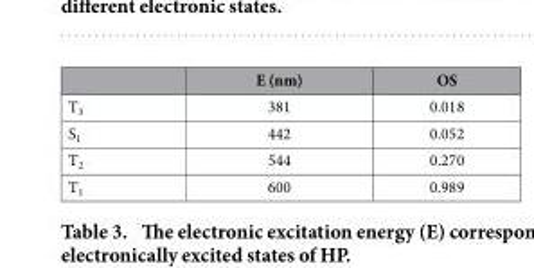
<table><thead><tr><td></td><td>E (nm)</td><td>OS</td></tr></thead><tbody><tr><td>T<sub>3</sub></td><td>381</td><td>0.018</td></tr><tr><td>S<sub>1</sub></td><td>442</td><td>0.052</td></tr><tr><td>T<sub>2</sub></td><td>544</td><td>0.270</td></tr><tr><td>T<sub>1</sub></td><td>600</td><td>0.989</td></tr></tbody></table>